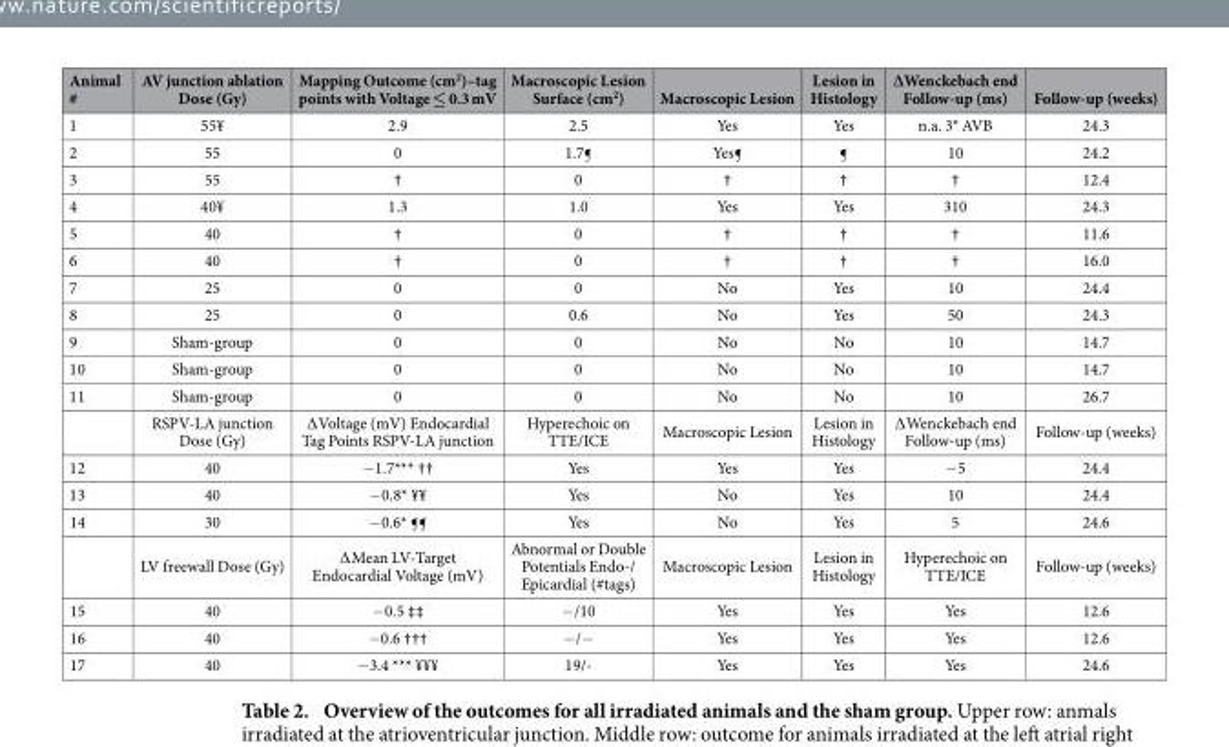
<table><thead><tr><td>Animal #</td><td>AV junction ablation Dose (Gy)</td><td>Mapping Outcome (cm<sup>2</sup>)–tag points with Voltage ≤ 0.3 mV</td><td>Macroscopic Lesion Surface (cm<sup>2</sup>)</td><td>Macroscopic Lesion</td><td>Lesion in Histology</td><td>∆Wenckebach end Follow-up (ms)</td><td>Follow-up (weeks)</td></tr></thead><tbody><tr><td>1</td><td>55¥</td><td>2.9</td><td>2.5</td><td>Yes</td><td>Yes</td><td>n.a. 3° AVB</td><td>24.3</td></tr><tr><td>2</td><td>55</td><td>0</td><td>1.7¶</td><td>Yes¶</td><td>¶</td><td>10</td><td>24.2</td></tr><tr><td>3</td><td>55</td><td>†</td><td>0</td><td>†</td><td>†</td><td>†</td><td>12.4</td></tr><tr><td>4</td><td>40¥</td><td>1.3</td><td>1.0</td><td>Yes</td><td>Yes</td><td>310</td><td>24.3</td></tr><tr><td>5</td><td>40</td><td>†</td><td>0</td><td>†</td><td>†</td><td>†</td><td>11.6</td></tr><tr><td>6</td><td>40</td><td>†</td><td>0</td><td>†</td><td>†</td><td>†</td><td>16.0</td></tr><tr><td>7</td><td>25</td><td>0</td><td>0</td><td>No</td><td>Yes</td><td>10</td><td>24.4</td></tr><tr><td>8</td><td>25</td><td>0</td><td>0.6</td><td>No</td><td>Yes</td><td>50</td><td>24.3</td></tr><tr><td>9</td><td>Sham-group</td><td>0</td><td>0</td><td>No</td><td>No</td><td>10</td><td>14.7</td></tr><tr><td>10</td><td>Sham-group</td><td>0</td><td>0</td><td>No</td><td>No</td><td>10</td><td>14.7</td></tr><tr><td rowspan="2">11</td><td>Sham-group</td><td>0</td><td>0</td><td>No</td><td>No</td><td>10</td><td>26.7</td></tr><tr><td>RSPV-LA junction Dose (Gy)</td><td>∆ Voltage (mV) Endocardial Tag Points RSPV-LA junction</td><td>Hyperechoic on TTE/ICE</td><td>Macroscopic Lesion</td><td>Lesion in Histology</td><td>∆ Wenckebach end Follow-up (ms)</td><td>Follow-up (weeks)</td></tr><tr><td>12</td><td>40</td><td>− 1.7*** ††</td><td>Yes</td><td>Yes</td><td>Yes</td><td>− 5</td><td>24.4</td></tr><tr><td>13</td><td>40</td><td>− 0.8* ¥¥</td><td>Yes</td><td>No</td><td>Yes</td><td>10</td><td>24.4</td></tr><tr><td rowspan="2">14</td><td>30</td><td>− 0.6* ¶¶</td><td>Yes</td><td>No</td><td>Yes</td><td>5</td><td>24.6</td></tr><tr><td>LV freewall Dose (Gy)</td><td>∆ Mean LV-Target Endocardial Voltage (mV)</td><td>Abnormal or Double Potentials Endo-/ Epicardial (#tags)</td><td>Macroscopic Lesion</td><td>Lesion in Histology</td><td>Hyperechoic on TTE/ICE</td><td>Follow-up (weeks)</td></tr><tr><td>15</td><td>40</td><td>− 0.5 ‡‡</td><td>− /10</td><td>Yes</td><td>Yes</td><td>Yes</td><td>12.6</td></tr><tr><td>16</td><td>40</td><td>− 0.6 †††</td><td>− /−</td><td>Yes</td><td>Yes</td><td>Yes</td><td>12.6</td></tr><tr><td>17</td><td>40</td><td>− 3.4 *** ¥¥¥</td><td>19/-</td><td>Yes</td><td>Yes</td><td>Yes</td><td>24.6</td></tr></tbody></table>